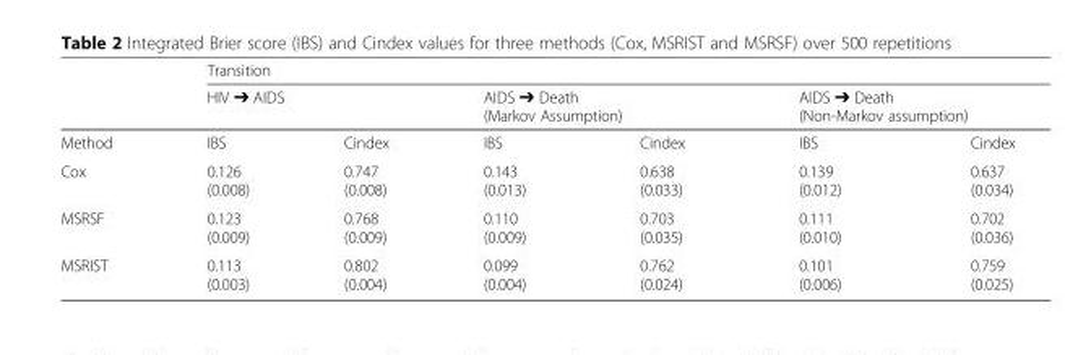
<table><thead><tr><td rowspan="3">Method</td><td colspan="6">Transition</td></tr><tr><td colspan="2">HIV ➔ AIDS</td><td colspan="2">AIDS ➔ Death (Markov Assumption)</td><td colspan="2">AIDS ➔ Death (Non-Markov assumption)</td></tr><tr><td>IBS</td><td>Cindex</td><td>IBS</td><td>Cindex</td><td>IBS</td><td>Cindex</td></tr></thead><tbody><tr><td>Cox</td><td>0.126 (0.008)</td><td>0.747 (0.008)</td><td>0.143 (0.013)</td><td>0.638 (0.033)</td><td>0.139 (0.012)</td><td>0.637 (0.034)</td></tr><tr><td>MSRSF</td><td>0.123 (0.009)</td><td>0.768 (0.009)</td><td>0.110 (0.009)</td><td>0.703 (0.035)</td><td>0.111 (0.010)</td><td>0.702 (0.036)</td></tr><tr><td>MSRIST</td><td>0.113 (0.003)</td><td>0.802 (0.004)</td><td>0.099 (0.004)</td><td>0.762 (0.024)</td><td>0.101 (0.006)</td><td>0.759 (0.025)</td></tr></tbody></table>